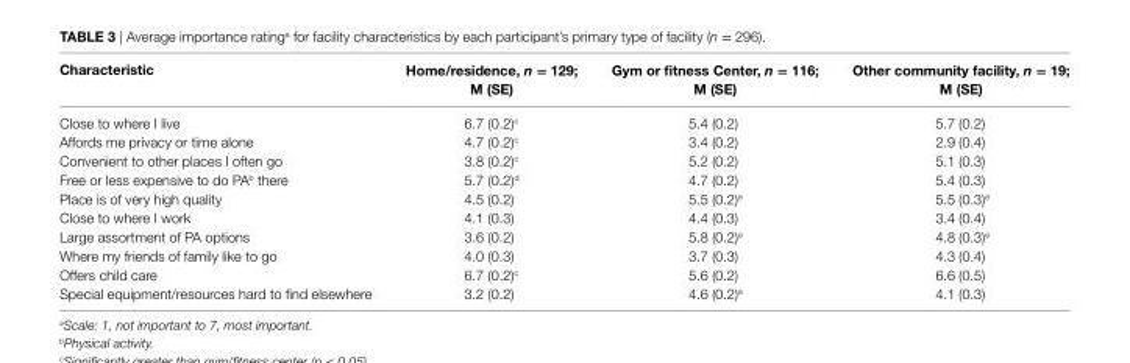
<table><thead><tr><td>characteristic</td><td>home/residence, n = 129; M (se)</td><td>gym or fitness center, n = 116; M (se)</td><td>Other community facility, n = 19; M (se)</td></tr></thead><tbody><tr><td>Close to where I live</td><td>6.7 (0.2)<sup>c</sup></td><td>5.4 (0.2)</td><td>5.7 (0.2)</td></tr><tr><td>Affords me privacy or time alone</td><td>4.7 (0.2)<sup>c</sup></td><td>3.4 (0.2)</td><td>2.9 (0.4)</td></tr><tr><td>Convenient to other places I often go</td><td>3.8 (0.2)<sup>c</sup></td><td>5.2 (0.2)</td><td>5.1 (0.3)</td></tr><tr><td>Free or less expensive to do PA<sup>b</sup> there</td><td>5.7 (0.2)<sup>d</sup></td><td>4.7 (0.2)</td><td>5.4 (0.3)</td></tr><tr><td>Place is of very high quality</td><td>4.5 (0.2)</td><td>5.5 (0.2)<sup>e</sup></td><td>5.5 (0.3)<sup>e</sup></td></tr><tr><td>Close to where I work</td><td>4.1 (0.3)</td><td>4.4 (0.3)</td><td>3.4 (0.4)</td></tr><tr><td>Large assortment of PA options</td><td>3.6 (0.2)</td><td>5.8 (0.2)<sup>e</sup></td><td>4.8 (0.3)<sup>e</sup></td></tr><tr><td>Where my friends of family like to go</td><td>4.0 (0.3)</td><td>3.7 (0.3)</td><td>4.3 (0.4)</td></tr><tr><td>Offers child care</td><td>6.7 (0.2)<sup>c</sup></td><td>5.6 (0.2)</td><td>6.6 (0.5)</td></tr><tr><td>Special equipment/resources hard to find elsewhere</td><td>3.2 (0.2)</td><td>4.6 (0.2)<sup>e</sup></td><td>4.1 (0.3)</td></tr></tbody></table>